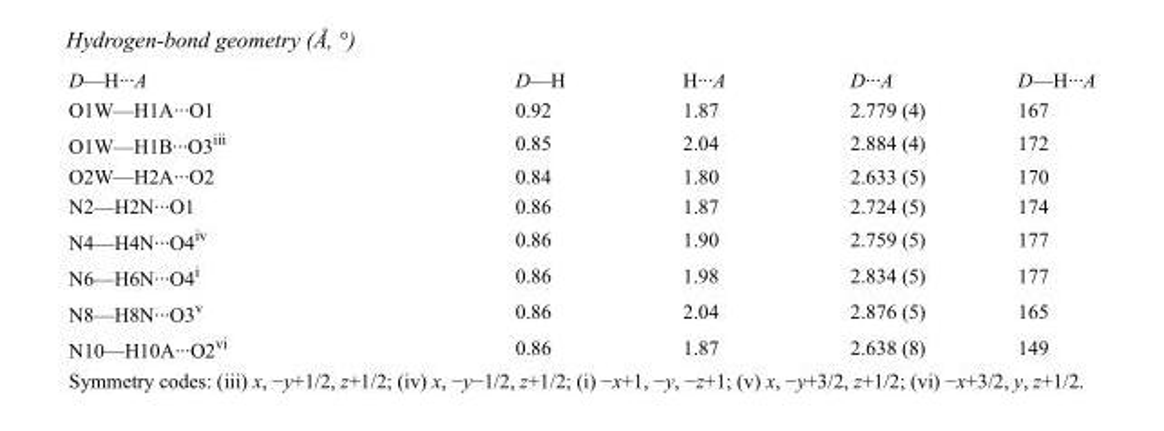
<table><tbody><tr><td>D—H···A</td><td>D—H</td><td>H···A</td><td>D···A</td><td>D—H···A</td></tr><tr><td>O1W—H1A···O1</td><td>0.92</td><td>1.87</td><td>2.779 (4)</td><td>167</td></tr><tr><td>O1W—H1B···O3<sup>iii</sup></td><td>0.85</td><td>2.04</td><td>2.884 (4)</td><td>172</td></tr><tr><td>O2W—H2A···O2</td><td>0.84</td><td>1.80</td><td>2.633 (5)</td><td>170</td></tr><tr><td>N2—H2N···O1</td><td>0.86</td><td>1.87</td><td>2.724 (5)</td><td>174</td></tr><tr><td>N4—H4N···O4<sup>iv</sup></td><td>0.86</td><td>1.90</td><td>2.759 (5)</td><td>177</td></tr><tr><td>N6—H6N···O4<sup>i</sup></td><td>0.86</td><td>1.98</td><td>2.834 (5)</td><td>177</td></tr><tr><td>N8—H8N···O3<sup>v</sup></td><td>0.86</td><td>2.04</td><td>2.876 (5)</td><td>165</td></tr><tr><td>N10—H10A···O2<sup>vi</sup></td><td>0.86</td><td>1.87</td><td>2.638 (8)</td><td>149</td></tr></tbody></table>